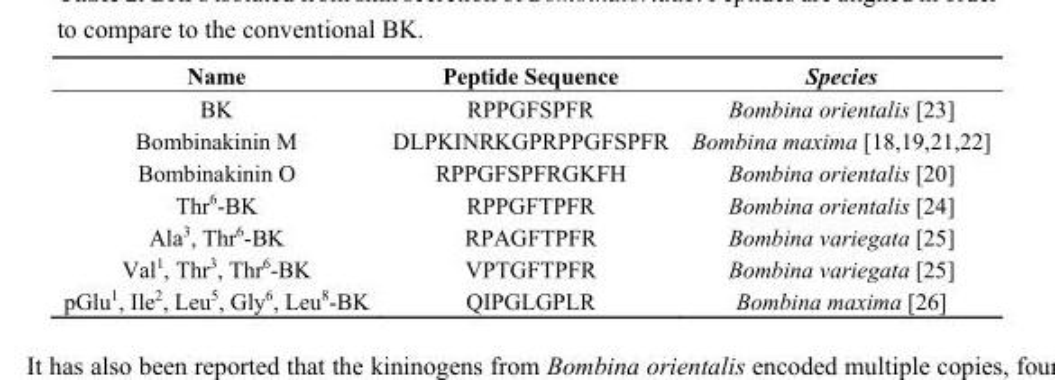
<table><thead><tr><td>Name</td><td>Peptide Sequence</td><td>Species</td></tr></thead><tbody><tr><td>BK</td><td>RPPGFSPFR</td><td>Bombina orientalis [23]</td></tr><tr><td>Bombinakinin M</td><td>DLPKINRKGPRPPGFSPFR</td><td>Bombina maxima [18,19,21,22]</td></tr><tr><td>Bombinakinin O</td><td>RPPGFSPFRGKFH</td><td>Bombina orientalis [20]</td></tr><tr><td>Thr<sup>6</sup>-BK</td><td>RPPGFTPFR</td><td>Bombina orientalis [24]</td></tr><tr><td>Ala<sup>3</sup>, Thr<sup>6</sup>-BK</td><td>RPAGFTPFR</td><td>Bombina variegata [25]</td></tr><tr><td>Val<sup>1</sup>, Thr<sup>3</sup>, Thr<sup>6</sup>-BK</td><td>VPTGFTPFR</td><td>Bombina variegata [25]</td></tr><tr><td>pGlu<sup>1</sup>, Ile<sup>2</sup>, Leu<sup>5</sup>, Gly<sup>6</sup>, Leu<sup>8</sup>-BK</td><td>QIPGLGPLR</td><td>Bombina maxima [26]</td></tr></tbody></table>